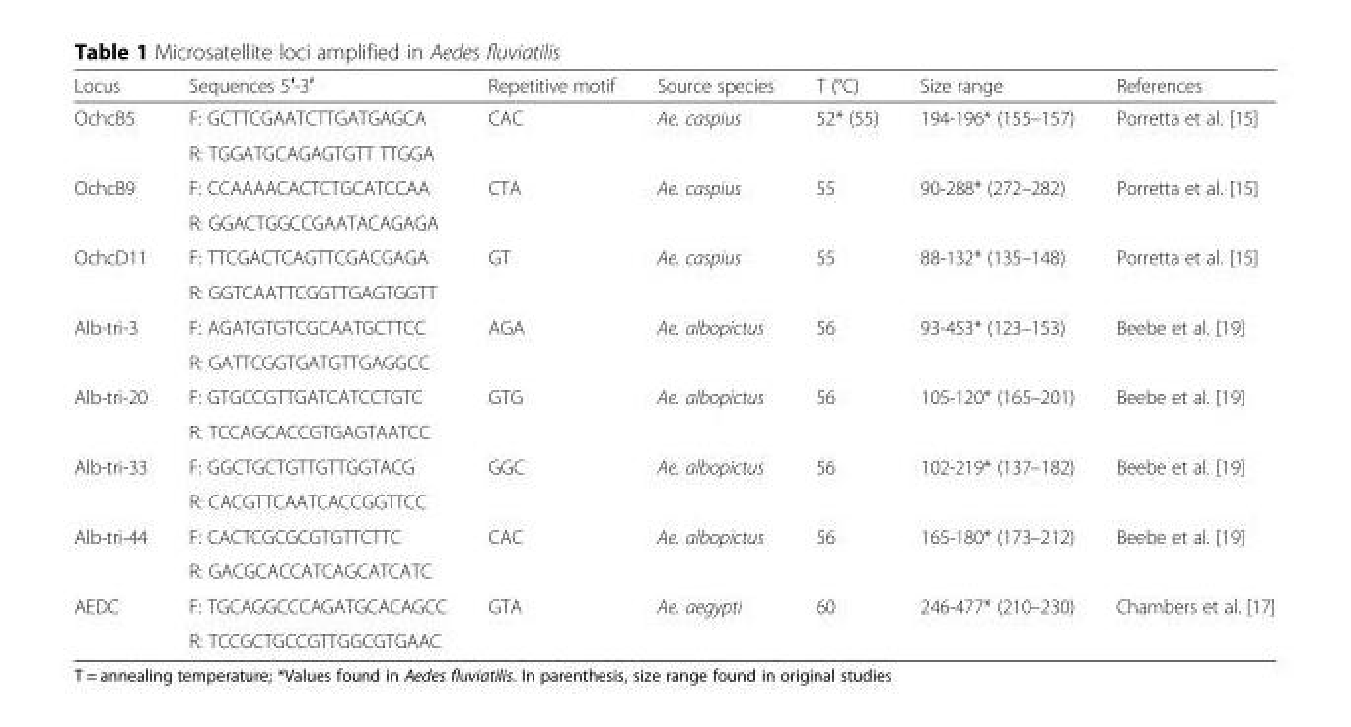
<table><thead><tr><td>Locus</td><td>Sequences 5′-3′</td><td>Repetitive motif</td><td>Source species</td><td>T (°C)</td><td>Size range</td><td>References</td></tr></thead><tbody><tr><td rowspan="2">OchcB5</td><td>F: GCTTCGAATCTTGATGAGCA</td><td rowspan="2">CAC</td><td rowspan="2">Ae. caspius</td><td rowspan="2">52* (55)</td><td rowspan="2">194-196* (155–157)</td><td rowspan="2">Porretta et al. [15]</td></tr><tr><td>R: TGGATGCAGAGTGTT TTGGA</td></tr><tr><td rowspan="2">OchcB9</td><td>F: CCAAAACACTCTGCATCCAA</td><td rowspan="2">CTA</td><td rowspan="2">Ae. caspius</td><td rowspan="2">55</td><td rowspan="2">90-288* (272–282)</td><td rowspan="2">Porretta et al. [15]</td></tr><tr><td>R: GGACTGGCCGAATACAGAGA</td></tr><tr><td rowspan="2">OchcD11</td><td>F: TTCGACTCAGTTCGACGAGA</td><td rowspan="2">GT</td><td rowspan="2">Ae. caspius</td><td rowspan="2">55</td><td rowspan="2">88-132* (135–148)</td><td rowspan="2">Porretta et al. [15]</td></tr><tr><td>R: GGTCAATTCGGTTGAGTGGTT</td></tr><tr><td rowspan="2">Alb-tri-3</td><td>F: AGATGTGTCGCAATGCTTCC</td><td rowspan="2">AGA</td><td rowspan="2">Ae. albopictus</td><td rowspan="2">56</td><td rowspan="2">93-453* (123–153)</td><td rowspan="2">Beebe et al. [19]</td></tr><tr><td>R: GATTCGGTGATGTTGAGGCC</td></tr><tr><td rowspan="2">Alb-tri-20</td><td>F: GTGCCGTTGATCATCCTGTC</td><td rowspan="2">GTG</td><td rowspan="2">Ae. albopictus</td><td rowspan="2">56</td><td rowspan="2">105-120* (165–201)</td><td rowspan="2">Beebe et al. [19]</td></tr><tr><td>R: TCCAGCACCGTGAGTAATCC</td></tr><tr><td rowspan="2">Alb-tri-33</td><td>F: GGCTGCTGTTGTTGGTACG</td><td rowspan="2">GGC</td><td rowspan="2">Ae. albopictus</td><td rowspan="2">56</td><td rowspan="2">102-219* (137–182)</td><td rowspan="2">Beebe et al. [19]</td></tr><tr><td>R: CACGTTCAATCACCGGTTCC</td></tr><tr><td rowspan="2">Alb-tri-44</td><td>F: CACTCGCGCGTGTTCTTC</td><td rowspan="2">CAC</td><td rowspan="2">Ae. albopictus</td><td rowspan="2">56</td><td rowspan="2">165-180* (173–212)</td><td rowspan="2">Beebe et al. [19]</td></tr><tr><td>R: GACGCACCATCAGCATCATC</td></tr><tr><td rowspan="2">AEDC</td><td>F: TGCAGGCCCAGATGCACAGCC</td><td rowspan="2">GTA</td><td rowspan="2">Ae. aegypti</td><td rowspan="2">60</td><td rowspan="2">246-477* (210–230)</td><td rowspan="2">Chambers et al. [17]</td></tr><tr><td>R: TCCGCTGCCGTTGGCGTGAAC</td></tr></tbody></table>